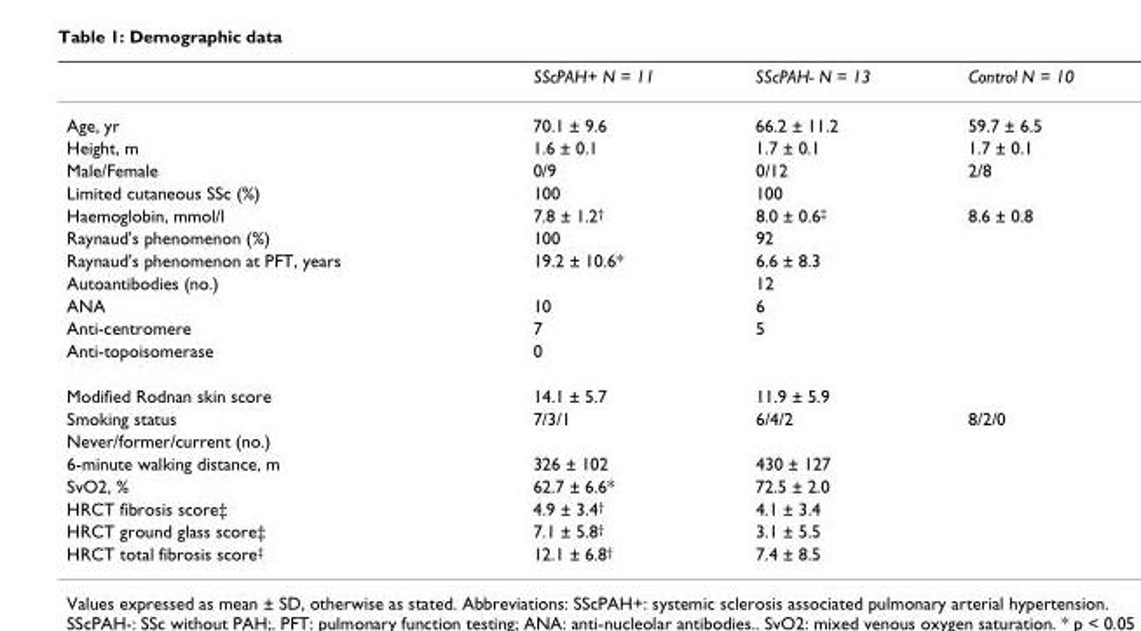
<table><thead><tr><td></td><td>SScPAH+ N = 11</td><td>SScPAH- N = 13</td><td>Control N = 10</td></tr></thead><tbody><tr><td>Age, yr</td><td>70.1 ± 9.6</td><td>66.2 ± 11.2</td><td>59.7 ± 6.5</td></tr><tr><td>Height, m</td><td>1.6 ± 0.1</td><td>1.7 ± 0.1</td><td>1.7 ± 0.1</td></tr><tr><td>Male/Female</td><td>0/9</td><td>0/12</td><td>2/8</td></tr><tr><td>Limited cutaneous SSc (%)</td><td>100</td><td>100</td><td></td></tr><tr><td>Haemoglobin, mmol/l</td><td>7.8 ± 1.2<sup>†</sup></td><td>8.0 ± 0.6<sup>‡</sup></td><td>8.6 ± 0.8</td></tr><tr><td>Raynaud&#x27;s phenomenon (%)</td><td>100</td><td>92</td><td></td></tr><tr><td>Raynaud&#x27;s phenomenon at PFT, years</td><td>19.2 ± 10.6*</td><td>6.6 ± 8.3</td><td></td></tr><tr><td>Autoantibodies (no.)</td><td></td><td>12</td><td></td></tr><tr><td>ANA</td><td>10</td><td>6</td><td></td></tr><tr><td>Anti-centromere</td><td>7</td><td>5</td><td></td></tr><tr><td>Anti-topoisomerase</td><td>0</td><td></td><td></td></tr><tr><td>Modified Rodnan skin score</td><td>14.1 ± 5.7</td><td>11.9 ± 5.9</td><td></td></tr><tr><td>Smoking status</td><td>7/3/1</td><td>6/4/2</td><td>8/2/0</td></tr><tr><td colspan="4">Never/former/current (no.)</td></tr><tr><td>6-minute walking distance, m</td><td>326 ± 102</td><td>430 ± 127</td><td></td></tr><tr><td>SvO2, %</td><td>62.7 ± 6.6*</td><td>72.5 ± 2.0</td><td></td></tr><tr><td>HRCT fibrosis score‡</td><td>4.9 ± 3.4<sup>†</sup></td><td>4.1 ± 3.4</td><td></td></tr><tr><td>HRCT ground glass score‡</td><td>7.1 ± 5.8<sup>†</sup></td><td>3.1 ± 5.5</td><td></td></tr><tr><td>HRCT total fibrosis score<sup>‡</sup></td><td>12.1 ± 6.8<sup>†</sup></td><td>7.4 ± 8.5</td><td></td></tr></tbody></table>